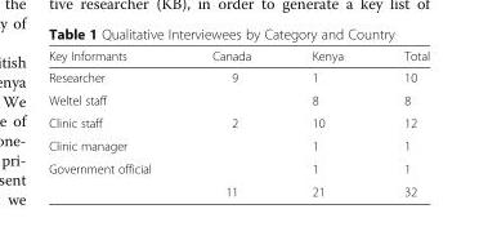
<table><thead><tr><td>Key Informants</td><td>Canada</td><td>Kenya</td><td>Total</td></tr></thead><tbody><tr><td>Researcher</td><td>9</td><td>1</td><td>10</td></tr><tr><td>Weltel staff</td><td></td><td>8</td><td>8</td></tr><tr><td>Clinic staff</td><td>2</td><td>10</td><td>12</td></tr><tr><td>Clinic manager</td><td></td><td>1</td><td>1</td></tr><tr><td rowspan="2">Government official</td><td></td><td>1</td><td>1</td></tr><tr><td>11</td><td>21</td><td>32</td></tr></tbody></table>